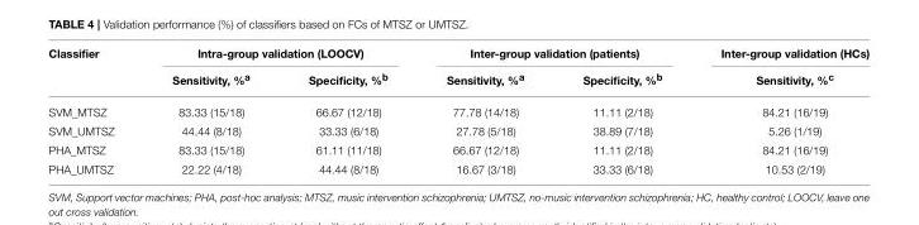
<table><thead><tr><td rowspan="2">Classifier</td><td colspan="2">Intra-group validation (LOOCV)</td><td colspan="2">Inter-group validation (patients)</td><td rowspan="2">Inter-group validation (HCs) Sensitivity, %<sup>c</sup></td></tr><tr><td>Sensitivity, %<sup>a</sup></td><td>Specificity, %<sup>b</sup></td><td>Sensitivity, %<sup>a</sup></td><td>Specificity, %<sup>b</sup></td></tr></thead><tbody><tr><td>SVM_MTSZ</td><td>83.33 (15/18)</td><td>66.67 (12/18)</td><td>77.78 (14/18)</td><td>11.11 (2/18)</td><td>84.21 (16/19)</td></tr><tr><td>SVM_UMTSZ</td><td>44.44 (8/18)</td><td>33.33 (6/18)</td><td>27.78 (5/18)</td><td>38.89 (7/18)</td><td>5.26 (1/19)</td></tr><tr><td>PHA_MTSZ</td><td>83.33 (15/18)</td><td>61.11 (11/18)</td><td>66.67 (12/18)</td><td>11.11 (2/18)</td><td>84.21 (16/19)</td></tr><tr><td>PHA_UMTSZ</td><td>22.22 (4/18)</td><td>44.44 (8/18)</td><td>16.67 (3/18)</td><td>33.33 (6/18)</td><td>10.53 (2/19)</td></tr></tbody></table>